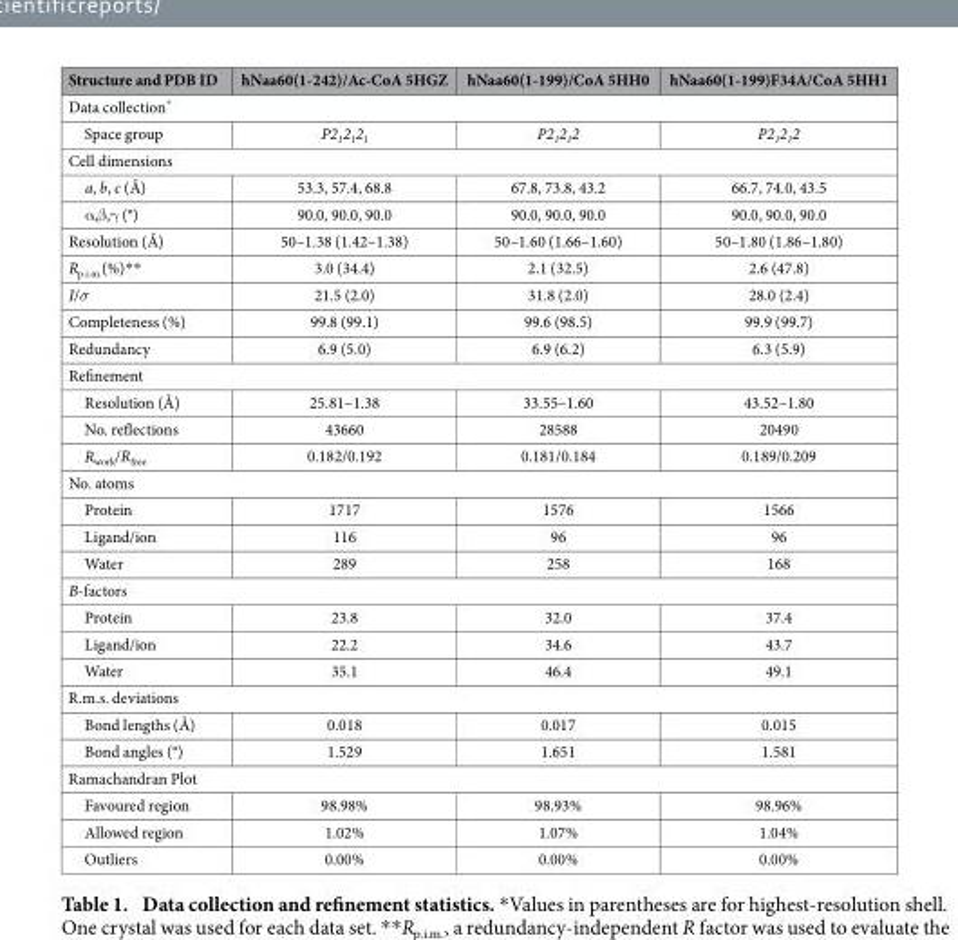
<table><thead><tr><td>Structure and PDB ID</td><td>hNaa60(1-242)/Ac-CoA 5HGZ</td><td>hNaa60(1-199)/CoA 5HH0</td><td>hNaa60(1-199)F34A/CoA 5HH1</td></tr></thead><tbody><tr><td colspan="4">Data collection*</td></tr><tr><td>Space group</td><td>P2<sub>1</sub>2<sub>1</sub>2<sub>1</sub></td><td>P2<sub>1</sub>2<sub>1</sub>2</td><td>P2<sub>1</sub>2<sub>1</sub>2</td></tr><tr><td colspan="4">Cell dimensions</td></tr><tr><td>a, b, c (Å)</td><td>53.3, 57.4, 68.8</td><td>67.8, 73.8, 43.2</td><td>66.7, 74.0, 43.5</td></tr><tr><td>α ,β ,γ (°)</td><td>90.0, 90.0, 90.0</td><td>90.0, 90.0, 90.0</td><td>90.0, 90.0, 90.0</td></tr><tr><td>Resolution (Å)</td><td>50–1.38 (1.42–1.38)</td><td>50–1.60 (1.66–1.60)</td><td>50–1.80 (1.86–1.80)</td></tr><tr><td>R<sub>p.i.m.</sub>(%)**</td><td>3.0 (34.4)</td><td>2.1 (32.5)</td><td>2.6 (47.8)</td></tr><tr><td>I/σ</td><td>21.5 (2.0)</td><td>31.8 (2.0)</td><td>28.0 (2.4)</td></tr><tr><td>Completeness (%)</td><td>99.8 (99.1)</td><td>99.6 (98.5)</td><td>99.9 (99.7)</td></tr><tr><td>Redundancy</td><td>6.9 (5.0)</td><td>6.9 (6.2)</td><td>6.3 (5.9)</td></tr><tr><td colspan="4">Refinement</td></tr><tr><td>Resolution (Å)</td><td>25.81–1.38</td><td>33.55–1.60</td><td>43.52–1.80</td></tr><tr><td>No. reflections</td><td>43660</td><td>28588</td><td>20490</td></tr><tr><td>R<sub>work</sub>/R<sub>free</sub></td><td>0.182/0.192</td><td>0.181/0.184</td><td>0.189/0.209</td></tr><tr><td colspan="4">No. atoms</td></tr><tr><td>Protein</td><td>1717</td><td>1576</td><td>1566</td></tr><tr><td>Ligand/ion</td><td>116</td><td>96</td><td>96</td></tr><tr><td>Water</td><td>289</td><td>258</td><td>168</td></tr><tr><td colspan="4">B-factors</td></tr><tr><td>Protein</td><td>23.8</td><td>32.0</td><td>37.4</td></tr><tr><td>Ligand/ion</td><td>22.2</td><td>34.6</td><td>43.7</td></tr><tr><td>Water</td><td>35.1</td><td>46.4</td><td>49.1</td></tr><tr><td colspan="4">R.m.s. deviations</td></tr><tr><td>Bond lengths (Å)</td><td>0.018</td><td>0.017</td><td>0.015</td></tr><tr><td>Bond angles (°)</td><td>1.529</td><td>1.651</td><td>1.581</td></tr><tr><td colspan="4">Ramachandran Plot</td></tr><tr><td>Favoured region</td><td>98.98%</td><td>98.93%</td><td>98.96%</td></tr><tr><td>Allowed region</td><td>1.02%</td><td>1.07%</td><td>1.04%</td></tr><tr><td>Outliers</td><td>0.00%</td><td>0.00%</td><td>0.00%</td></tr></tbody></table>